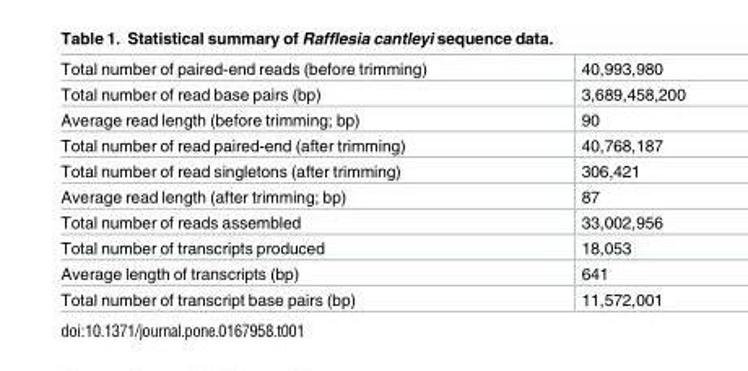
<table><tbody><tr><td>Total number of paired-end reads (before trimming)</td><td>40,993,980</td></tr><tr><td>Total number of read base pairs (bp)</td><td>3,689,458,200</td></tr><tr><td>Average read length (before trimming; bp)</td><td>90</td></tr><tr><td>Total number of read paired-end (after trimming)</td><td>40,768,187</td></tr><tr><td>Total number of read singletons (after trimming)</td><td>306,421</td></tr><tr><td>Average read length (after trimming; bp)</td><td>87</td></tr><tr><td>Total number of reads assembled</td><td>33,002,956</td></tr><tr><td>Total number of transcripts produced</td><td>18,053</td></tr><tr><td>Average length of transcripts (bp)</td><td>641</td></tr><tr><td>Total number of transcript base pairs (bp)</td><td>11,572,001</td></tr></tbody></table>